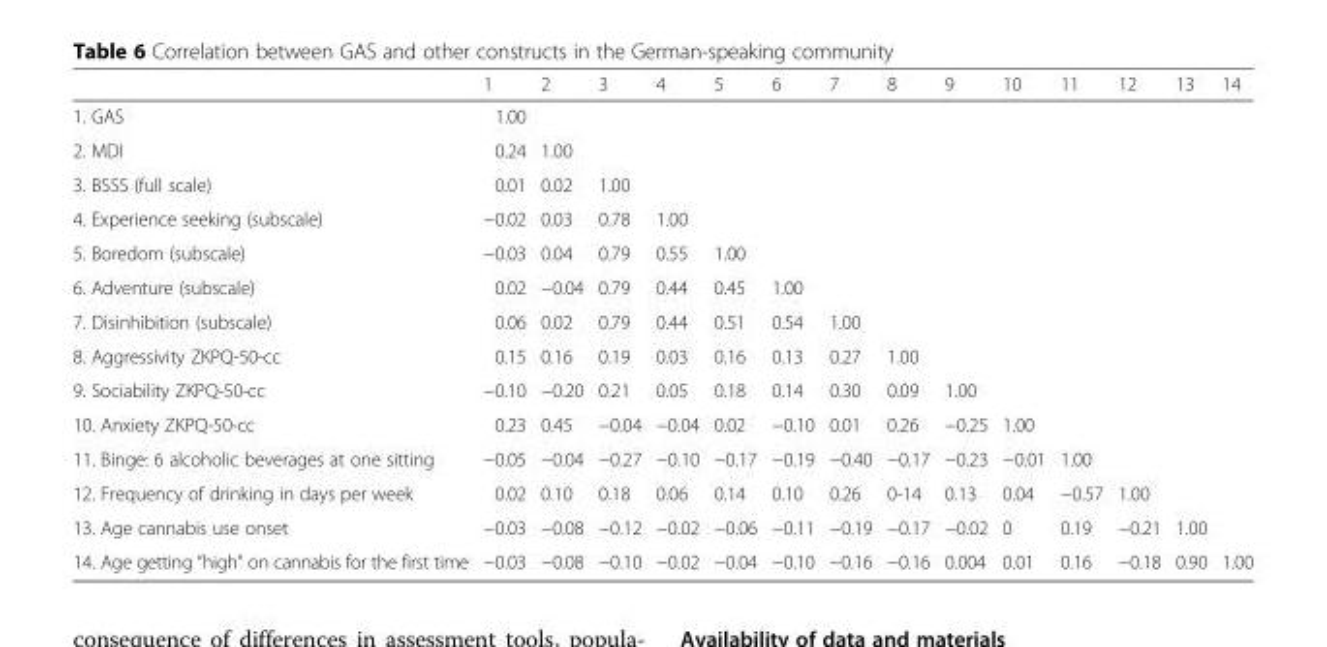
<table><thead><tr><td></td><td>1</td><td>2</td><td>3</td><td>4</td><td>5</td><td>6</td><td>7</td><td>8</td><td>9</td><td>10</td><td>11</td><td>12</td><td>13</td><td>14</td></tr></thead><tbody><tr><td>1. GAS</td><td>1.00</td><td></td><td></td><td></td><td></td><td></td><td></td><td></td><td></td><td></td><td></td><td></td><td></td><td></td></tr><tr><td>2. MDI</td><td>0.24</td><td>1.00</td><td></td><td></td><td></td><td></td><td></td><td></td><td></td><td></td><td></td><td></td><td></td><td></td></tr><tr><td>3. BSSS (full scale)</td><td>0.01</td><td>0.02</td><td>1.00</td><td></td><td></td><td></td><td></td><td></td><td></td><td></td><td></td><td></td><td></td><td></td></tr><tr><td>4. Experience seeking (subscale)</td><td>−0.02</td><td>0.03</td><td>0.78</td><td>1.00</td><td></td><td></td><td></td><td></td><td></td><td></td><td></td><td></td><td></td><td></td></tr><tr><td>5. Boredom (subscale)</td><td>−0.03</td><td>0.04</td><td>0.79</td><td>0.55</td><td>1.00</td><td></td><td></td><td></td><td></td><td></td><td></td><td></td><td></td><td></td></tr><tr><td>6. Adventure (subscale)</td><td>0.02</td><td>−0.04</td><td>0.79</td><td>0.44</td><td>0.45</td><td>1.00</td><td></td><td></td><td></td><td></td><td></td><td></td><td></td><td></td></tr><tr><td>7. Disinhibition (subscale)</td><td>0.06</td><td>0.02</td><td>0.79</td><td>0.44</td><td>0.51</td><td>0.54</td><td>1.00</td><td></td><td></td><td></td><td></td><td></td><td></td><td></td></tr><tr><td>8. Aggressivity ZKPQ-50-cc</td><td>0.15</td><td>0.16</td><td>0.19</td><td>0.03</td><td>0.16</td><td>0.13</td><td>0.27</td><td>1.00</td><td></td><td></td><td></td><td></td><td></td><td></td></tr><tr><td>9. Sociability ZKPQ-50-cc</td><td>−0.10</td><td>−0.20</td><td>0.21</td><td>0.05</td><td>0.18</td><td>0.14</td><td>0.30</td><td>0.09</td><td>1.00</td><td></td><td></td><td></td><td></td><td></td></tr><tr><td>10. Anxiety ZKPQ-50-cc</td><td>0.23</td><td>0.45</td><td>−0.04</td><td>−0.04</td><td>0.02</td><td>−0.10</td><td>0.01</td><td>0.26</td><td>−0.25</td><td>1.00</td><td></td><td></td><td></td><td></td></tr><tr><td>11. Binge: 6 alcoholic beverages at one sitting</td><td>−0.05</td><td>−0.04</td><td>−0.27</td><td>−0.10</td><td>−0.17</td><td>−0.19</td><td>−0.40</td><td>−0.17</td><td>−0.23</td><td>−0.01</td><td>1.00</td><td></td><td></td><td></td></tr><tr><td>12. Frequency of drinking in days per week</td><td>0.02</td><td>0.10</td><td>0.18</td><td>0.06</td><td>0.14</td><td>0.10</td><td>0.26</td><td>0-14</td><td>0.13</td><td>0.04</td><td>−0.57</td><td>1.00</td><td></td><td></td></tr><tr><td>13. Age cannabis use onset</td><td>−0.03</td><td>−0.08</td><td>−0.12</td><td>−0.02</td><td>−0.06</td><td>−0.11</td><td>−0.19</td><td>−0.17</td><td>−0.02</td><td>0</td><td>0.19</td><td>−0.21</td><td>1.00</td><td></td></tr><tr><td>14. Age getting “high” on cannabis for the first time</td><td>−0.03</td><td>−0.08</td><td>−0.10</td><td>−0.02</td><td>−0.04</td><td>−0.10</td><td>−0.16</td><td>−0.16</td><td>0.004</td><td>0.01</td><td>0.16</td><td>−0.18</td><td>0.90</td><td>1.00</td></tr></tbody></table>